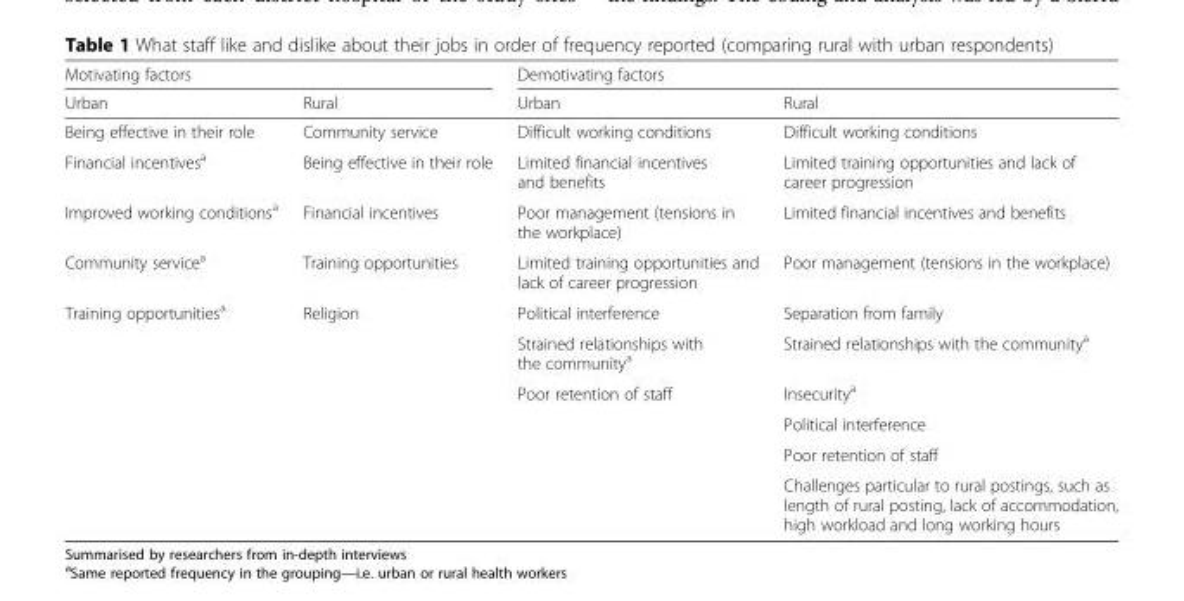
<table><thead><tr><td colspan="2">Motivating factors</td><td colspan="2">Demotivating factors</td></tr><tr><td>Urban</td><td>Rural</td><td>Urban</td><td>Rural</td></tr></thead><tbody><tr><td>Being effective in their role</td><td>Community service</td><td>Difficult working conditions</td><td>Difficult working conditions</td></tr><tr><td>Financial incentives<sup>a</sup></td><td>Being effective in their role</td><td>Limited financial incentives and benefits</td><td>Limited training opportunities and lack of career progression</td></tr><tr><td>Improved working conditions<sup>a</sup></td><td>Financial incentives</td><td>Poor management (tensions in the workplace)</td><td>Limited financial incentives and benefits</td></tr><tr><td>Community service<sup>a</sup></td><td>Training opportunities</td><td>Limited training opportunities and lack of career progression</td><td>Poor management (tensions in the workplace)</td></tr><tr><td rowspan="6">Training opportunities<sup>a</sup></td><td rowspan="6">Religion</td><td>Political interference</td><td>Separation from family</td></tr><tr><td>Strained relationships with the community<sup>a</sup></td><td>Strained relationships with the community<sup>a</sup></td></tr><tr><td rowspan="4">Poor retention of staff</td><td>Insecurity<sup>a</sup></td></tr><tr><td>Political interference</td></tr><tr><td>Poor retention of staff</td></tr><tr><td>Challenges particular to rural postings, such as length of rural posting, lack of accommodation, high workload and long working hours</td></tr></tbody></table>